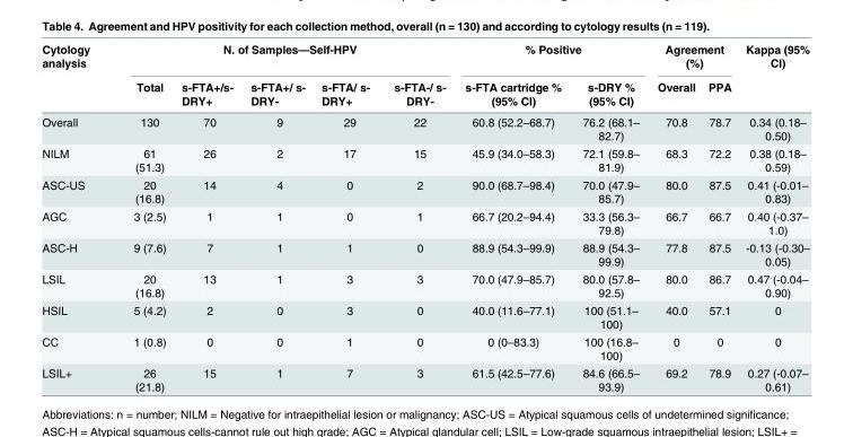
<table><thead><tr><td rowspan="2">Cytology analysis</td><td colspan="5">N. of Samples—Self-HPV</td><td colspan="2">% Positive</td><td colspan="2">Agreement (%)</td><td rowspan="2">Kappa (95% CI)</td></tr><tr><td>Total</td><td>s-FTA+/s- DRY+</td><td>s-FTA+/ s- DRY-</td><td>s-FTA/ s- DRY+</td><td>s-FTA-/ s- DRY-</td><td>s-FTA cartridge % (95% CI)</td><td>s-DRY % (95% CI)</td><td>Overall</td><td>PPA</td></tr></thead><tbody><tr><td>Overall</td><td>130</td><td>70</td><td>9</td><td>29</td><td>22</td><td>60.8 (52.2–68.7)</td><td>76.2 (68.1– 82.7)</td><td>70.8</td><td>78.7</td><td>0.34 (0.18– 0.50)</td></tr><tr><td>NILM</td><td>61 (51.3)</td><td>26</td><td>2</td><td>17</td><td>15</td><td>45.9 (34.0–58.3)</td><td>72.1 (59.8– 81.9)</td><td>68.3</td><td>72.2</td><td>0.38 (0.18– 0.59)</td></tr><tr><td>ASC-US</td><td>20 (16.8)</td><td>14</td><td>4</td><td>0</td><td>2</td><td>90.0 (68.7–98.4)</td><td>70.0 (47.9– 85.7)</td><td>80.0</td><td>87.5</td><td>0.41 (-0.01– 0.83)</td></tr><tr><td>AGC</td><td>3 (2.5)</td><td>1</td><td>1</td><td>0</td><td>1</td><td>66.7 (20.2–94.4)</td><td>33.3 (56.3– 79.8)</td><td>66.7</td><td>66.7</td><td>0.40 (-0.37– 1.0)</td></tr><tr><td>ASC-H</td><td>9 (7.6)</td><td>7</td><td>1</td><td>1</td><td>0</td><td>88.9 (54.3–99.9)</td><td>88.9 (54.3– 99.9)</td><td>77.8</td><td>87.5</td><td>-0.13 (-0.30– 0.05)</td></tr><tr><td>LSIL</td><td>20 (16.8)</td><td>13</td><td>1</td><td>3</td><td>3</td><td>70.0 (47.9–85.7)</td><td>80.0 (57.8– 92.5)</td><td>80.0</td><td>86.7</td><td>0.47 (-0.04– 0.90)</td></tr><tr><td>HSIL</td><td>5 (4.2)</td><td>2</td><td>0</td><td>3</td><td>0</td><td>40.0 (11.6–77.1)</td><td>100 (51.1– 100)</td><td>40.0</td><td>57.1</td><td>0</td></tr><tr><td>CC</td><td>1 (0.8)</td><td>0</td><td>0</td><td>1</td><td>0</td><td>0 (0–83.3)</td><td>100 (16.8– 100)</td><td>0</td><td>0</td><td>0</td></tr><tr><td>LSIL+</td><td>26 (21.8)</td><td>15</td><td>1</td><td>7</td><td>3</td><td>61.5 (42.5–77.6)</td><td>84.6 (66.5– 93.9)</td><td>69.2</td><td>78.9</td><td>0.27 (-0.07– 0.61)</td></tr></tbody></table>